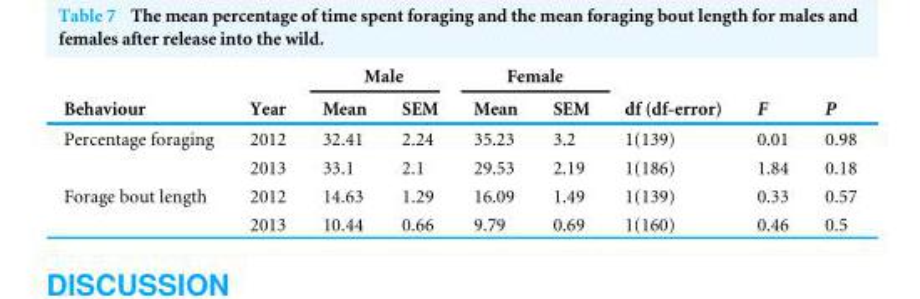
<table><thead><tr><td rowspan="2">Behaviour</td><td rowspan="2">Year</td><td colspan="2">Male</td><td colspan="2">Female</td><td rowspan="2">df (df-error)</td><td rowspan="2">F</td><td rowspan="2">P</td></tr><tr><td>Mean</td><td>SEM</td><td>Mean</td><td>SEM</td></tr></thead><tbody><tr><td rowspan="2">Percentage foraging</td><td>2012</td><td>32.41</td><td>2.24</td><td>35.23</td><td>3.2</td><td>1(139)</td><td>0.01</td><td>0.98</td></tr><tr><td>2013</td><td>33.1</td><td>2.1</td><td>29.53</td><td>2.19</td><td>1(186)</td><td>1.84</td><td>0.18</td></tr><tr><td rowspan="2">Forage bout length</td><td>2012</td><td>14.63</td><td>1.29</td><td>16.09</td><td>1.49</td><td>1(139)</td><td>0.33</td><td>0.57</td></tr><tr><td>2013</td><td>10.44</td><td>0.66</td><td>9.79</td><td>0.69</td><td>1(160)</td><td>0.46</td><td>0.5</td></tr></tbody></table>